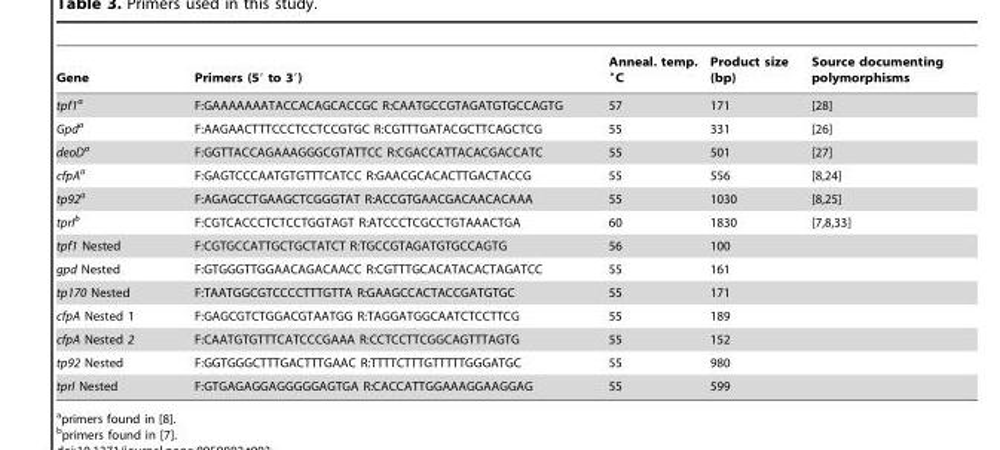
<table><thead><tr><td>Gene</td><td>Primers (5′ to 3′)</td><td>Anneal. temp. °C</td><td>Product size (bp)</td><td>Source documenting polymorphisms</td></tr></thead><tbody><tr><td>tpf1a</td><td>F:GAAAAAAATACCACAGCACCGC R:CAATGCCGTAGATGTGCCAGTG</td><td>57</td><td>171</td><td>[28]</td></tr><tr><td>Gpda</td><td>F:AAGAACTTTCCCTCCTCCGTGC R:CGTTTGATACGCTTCAGCTCG</td><td>55</td><td>331</td><td>[26]</td></tr><tr><td>deoDa</td><td>F:GGTTACCAGAAAGGGCGTATTCC R:CGACCATTACACGACCATC</td><td>55</td><td>501</td><td>[27]</td></tr><tr><td>cfpAa</td><td>F:GAGTCCCAATGTGTTTCATCC R:GAACGCACACTTGACTACCG</td><td>55</td><td>556</td><td>[8,24]</td></tr><tr><td>tp92a</td><td>F:AGAGCCTGAAGCTCGGGTAT R:ACCGTGAACGACAACACAAA</td><td>55</td><td>1030</td><td>[8,25]</td></tr><tr><td>tprIb</td><td>F:CGTCACCCTCTCCTGGTAGT R:ATCCCTCGCCTGTAAACTGA</td><td>60</td><td>1830</td><td>[7,8,33]</td></tr><tr><td>tpf1 Nested</td><td>F:CGTGCCATTGCTGCTATCT R:TGCCGTAGATGTGCCAGTG</td><td>56</td><td>100</td><td></td></tr><tr><td>gpd Nested</td><td>F:GTGGGTTGGAACAGACAACC R:CGTTTGCACATACACTAGATCC</td><td>55</td><td>161</td><td></td></tr><tr><td>tp170 Nested</td><td>F:TAATGGCGTCCCCTTTGTTA R:GAAGCCACTACCGATGTGC</td><td>55</td><td>171</td><td></td></tr><tr><td>cfpA Nested 1</td><td>F:GAGCGTCTGGACGTAATGG R:TAGGATGGCAATCTCCTTCG</td><td>55</td><td>189</td><td></td></tr><tr><td>cfpA Nested 2</td><td>F:CAATGTGTTTCATCCCGAAA R:CCTCCTTCGGCAGTTTAGTG</td><td>55</td><td>152</td><td></td></tr><tr><td>tp92 Nested</td><td>F:GGTGGGCTTTGACTTTGAAC R:TTTTCTTTGTTTTTGGGATGC</td><td>55</td><td>980</td><td></td></tr><tr><td>tprI Nested</td><td>F:GTGAGAGGAGGGGGAGTGA R:CACCATTGGAAAGGAAGGAG</td><td>55</td><td>599</td><td></td></tr></tbody></table>